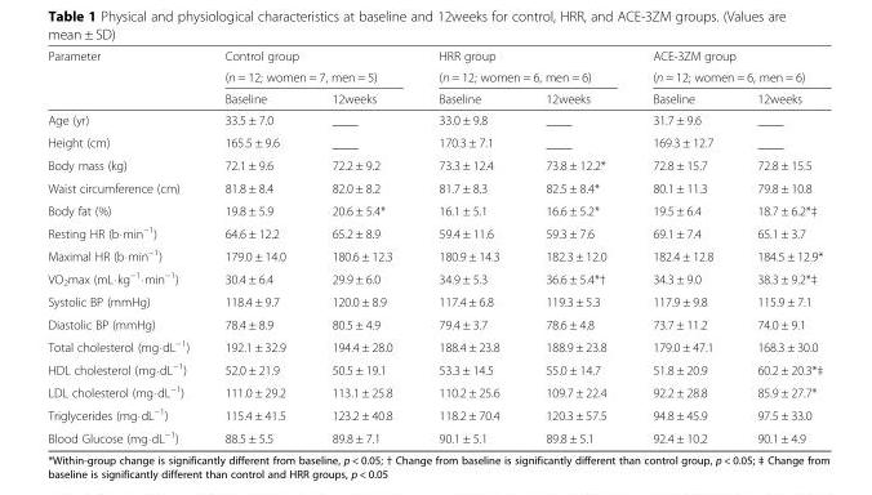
<table><thead><tr><td rowspan="3">Parameter</td><td rowspan="2" colspan="2">Control group (n = 12; women = 7, men = 5)</td><td rowspan="2" colspan="2">HRR group (n = 12; women = 6, men = 6)</td><td rowspan="2" colspan="2">ACE-3ZM group (n = 12; women = 6, men = 6)</td></tr><tr></tr><tr><td>Baseline</td><td>12weeks</td><td>Baseline</td><td>12weeks</td><td>Baseline</td><td>12weeks</td></tr></thead><tbody><tr><td>Age (yr)</td><td>33.5 ± 7.0</td><td>____</td><td>33.0 ± 9.8</td><td>____</td><td>31.7 ± 9.6</td><td>____</td></tr><tr><td>Height (cm)</td><td>165.5 ± 9.6</td><td>____</td><td>170.3 ± 7.1</td><td>____</td><td>169.3 ± 12.7</td><td>____</td></tr><tr><td>Body mass (kg)</td><td>72.1 ± 9.6</td><td>72.2 ± 9.2</td><td>73.3 ± 12.4</td><td>73.8 ± 12.2*</td><td>72.8 ± 15.7</td><td>72.8 ± 15.5</td></tr><tr><td>Waist circumference (cm)</td><td>81.8 ± 8.4</td><td>82.0 ± 8.2</td><td>81.7 ± 8.3</td><td>82.5 ± 8.4*</td><td>80.1 ± 11.3</td><td>79.8 ± 10.8</td></tr><tr><td>Body fat (%)</td><td>19.8 ± 5.9</td><td>20.6 ± 5.4*</td><td>16.1 ± 5.1</td><td>16.6 ± 5.2*</td><td>19.5 ± 6.4</td><td>18.7 ± 6.2*‡</td></tr><tr><td>Resting HR (b⋅min<sup>−1</sup>)</td><td>64.6 ± 12.2</td><td>65.2 ± 8.9</td><td>59.4 ± 11.6</td><td>59.3 ± 7.6</td><td>69.1 ± 7.4</td><td>65.1 ± 3.7</td></tr><tr><td>Maximal HR (b⋅min<sup>−1</sup>)</td><td>179.0 ± 14.0</td><td>180.6 ± 12.3</td><td>180.9 ± 14.3</td><td>182.3 ± 12.0</td><td>182.4 ± 12.8</td><td>184.5 ± 12.9*</td></tr><tr><td>VO<sub>2</sub>max (mL⋅kg<sup>−1</sup>⋅min<sup>−1</sup>)</td><td>30.4 ± 6.4</td><td>29.9 ± 6.0</td><td>34.9 ± 5.3</td><td>36.6 ± 5.4*†</td><td>34.3 ± 9.0</td><td>38.3 ± 9.2*‡</td></tr><tr><td>Systolic BP (mmHg)</td><td>118.4 ± 9.7</td><td>120.0 ± 8.9</td><td>117.4 ± 6.8</td><td>119.3 ± 5.3</td><td>117.9 ± 9.8</td><td>115.9 ± 7.1</td></tr><tr><td>Diastolic BP (mmHg)</td><td>78.4 ± 8.9</td><td>80.5 ± 4.9</td><td>79.4 ± 3.7</td><td>78.6 ± 4.8</td><td>73.7 ± 11.2</td><td>74.0 ± 9.1</td></tr><tr><td>Total cholesterol (mg⋅dL<sup>−1</sup>)</td><td>192.1 ± 32.9</td><td>194.4 ± 28.0</td><td>188.4 ± 23.8</td><td>188.9 ± 23.8</td><td>179.0 ± 47.1</td><td>168.3 ± 30.0</td></tr><tr><td>HDL cholesterol (mg⋅dL<sup>−1</sup>)</td><td>52.0 ± 21.9</td><td>50.5 ± 19.1</td><td>53.3 ± 14.5</td><td>55.0 ± 14.7</td><td>51.8 ± 20.9</td><td>60.2 ± 20.3*‡</td></tr><tr><td>LDL cholesterol (mg⋅dL<sup>−1</sup>)</td><td>111.0 ± 29.2</td><td>113.1 ± 25.8</td><td>110.2 ± 25.6</td><td>109.7 ± 22.4</td><td>92.2 ± 28.8</td><td>85.9 ± 27.7*</td></tr><tr><td>Triglycerides (mg⋅dL<sup>−1</sup>)</td><td>115.4 ± 41.5</td><td>123.2 ± 40.8</td><td>118.2 ± 70.4</td><td>120.3 ± 57.5</td><td>94.8 ± 45.9</td><td>97.5 ± 33.0</td></tr><tr><td>Blood Glucose (mg⋅dL<sup>−1</sup>)</td><td>88.5 ± 5.5</td><td>89.8 ± 7.1</td><td>90.1 ± 5.1</td><td>89.8 ± 5.1</td><td>92.4 ± 10.2</td><td>90.1 ± 4.9</td></tr></tbody></table>